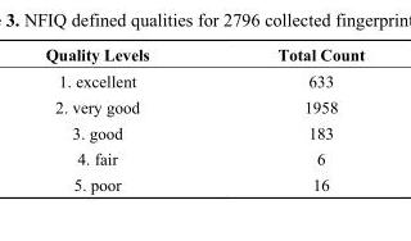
<table><thead><tr><td>Quality Levels</td><td>Total Count</td></tr></thead><tbody><tr><td>1. excellent</td><td>633</td></tr><tr><td>2. very good</td><td>1958</td></tr><tr><td>3. good</td><td>183</td></tr><tr><td>4. fair</td><td>6</td></tr><tr><td>5. poor</td><td>16</td></tr></tbody></table>